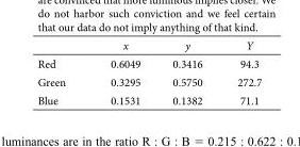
<table><thead><tr><td></td><td>x</td><td>y</td><td>Y</td></tr></thead><tbody><tr><td>Red</td><td>0.6049</td><td>0.3416</td><td>94.3</td></tr><tr><td>Green</td><td>0.3295</td><td>0.5750</td><td>272.7</td></tr><tr><td>Blue</td><td>0.1531</td><td>0.1382</td><td>71.1</td></tr></tbody></table>